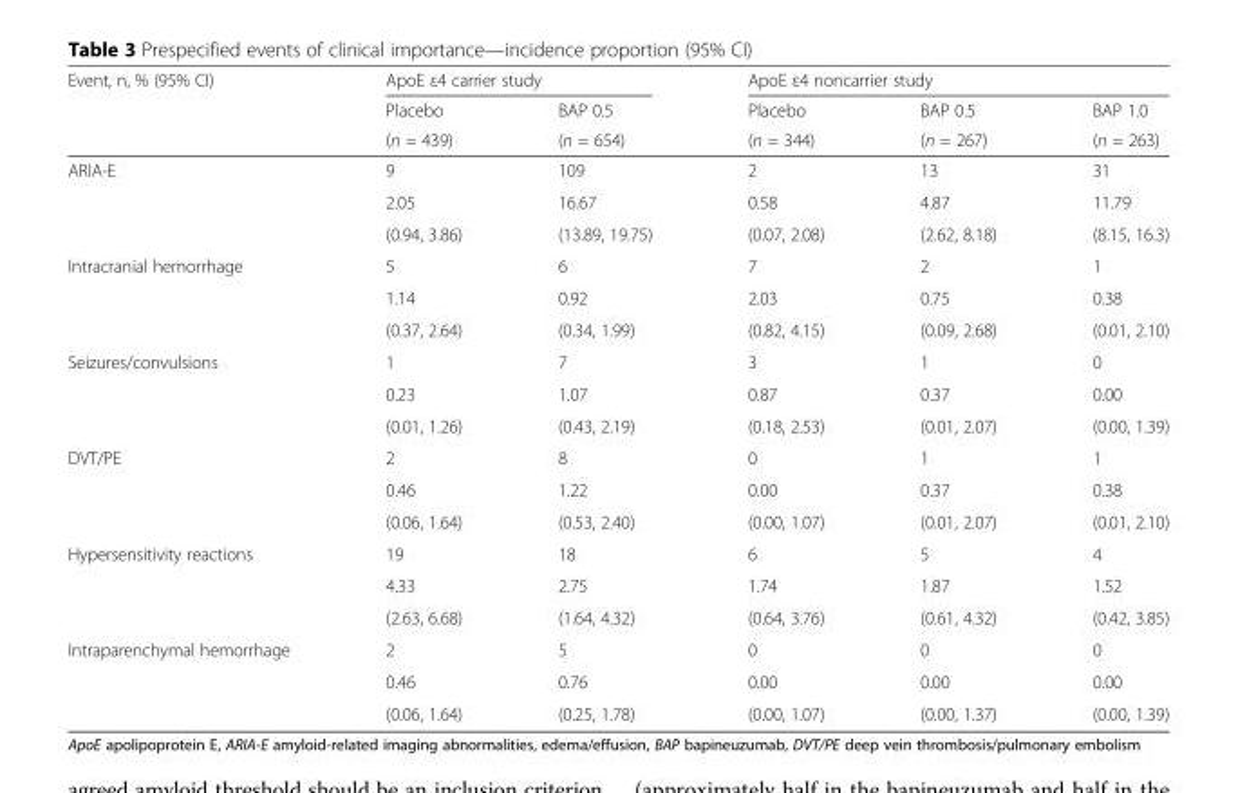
<table><thead><tr><td rowspan="3">Event, n, % (95% CI)</td><td colspan="2">ApoE ε4 carrier study</td><td colspan="3">ApoE ε4 noncarrier study</td></tr><tr><td rowspan="2">Placebo (n = 439)</td><td rowspan="2">BAP 0.5 (n = 654)</td><td rowspan="2">Placebo (n = 344)</td><td rowspan="2">BAP 0.5 (n = 267)</td><td rowspan="2">BAP 1.0 (n = 263)</td></tr><tr></tr></thead><tbody><tr><td rowspan="3">ARIA-E</td><td>9</td><td>109</td><td>2</td><td>13</td><td>31</td></tr><tr><td>2.05</td><td>16.67</td><td>0.58</td><td>4.87</td><td>11.79</td></tr><tr><td>(0.94, 3.86)</td><td>(13.89, 19.75)</td><td>(0.07, 2.08)</td><td>(2.62, 8.18)</td><td>(8.15, 16.3)</td></tr><tr><td rowspan="3">Intracranial hemorrhage</td><td>5</td><td>6</td><td>7</td><td>2</td><td>1</td></tr><tr><td>1.14</td><td>0.92</td><td>2.03</td><td>0.75</td><td>0.38</td></tr><tr><td>(0.37, 2.64)</td><td>(0.34, 1.99)</td><td>(0.82, 4.15)</td><td>(0.09, 2.68)</td><td>(0.01, 2.10)</td></tr><tr><td rowspan="3">Seizures/convulsions</td><td>1</td><td>7</td><td>3</td><td>1</td><td>0</td></tr><tr><td>0.23</td><td>1.07</td><td>0.87</td><td>0.37</td><td>0.00</td></tr><tr><td>(0.01, 1.26)</td><td>(0.43, 2.19)</td><td>(0.18, 2.53)</td><td>(0.01, 2.07)</td><td>(0.00, 1.39)</td></tr><tr><td rowspan="3">DVT/PE</td><td>2</td><td>8</td><td>0</td><td>1</td><td>1</td></tr><tr><td>0.46</td><td>1.22</td><td>0.00</td><td>0.37</td><td>0.38</td></tr><tr><td>(0.06, 1.64)</td><td>(0.53, 2.40)</td><td>(0.00, 1.07)</td><td>(0.01, 2.07)</td><td>(0.01, 2.10)</td></tr><tr><td rowspan="3">Hypersensitivity reactions</td><td>19</td><td>18</td><td>6</td><td>5</td><td>4</td></tr><tr><td>4.33</td><td>2.75</td><td>1.74</td><td>1.87</td><td>1.52</td></tr><tr><td>(2.63, 6.68)</td><td>(1.64, 4.32)</td><td>(0.64, 3.76)</td><td>(0.61, 4.32)</td><td>(0.42, 3.85)</td></tr><tr><td rowspan="3">Intraparenchymal hemorrhage</td><td>2</td><td>5</td><td>0</td><td>0</td><td>0</td></tr><tr><td>0.46</td><td>0.76</td><td>0.00</td><td>0.00</td><td>0.00</td></tr><tr><td>(0.06, 1.64)</td><td>(0.25, 1.78)</td><td>(0.00, 1.07)</td><td>(0.00, 1.37)</td><td>(0.00, 1.39)</td></tr></tbody></table>